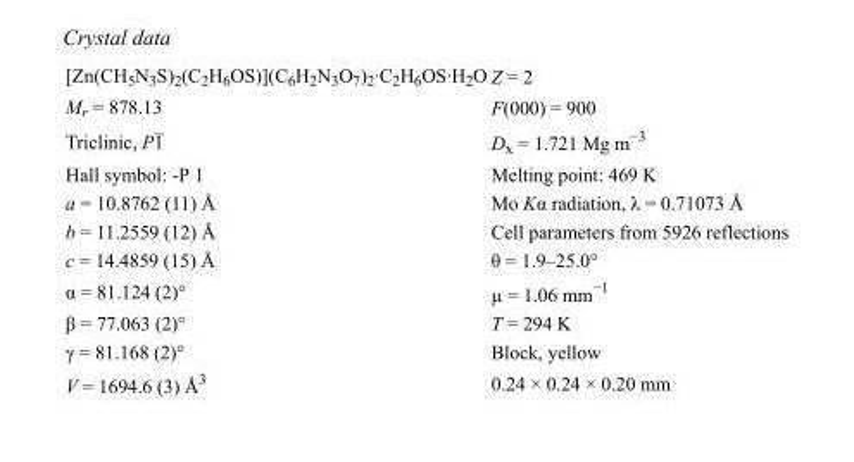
<table><tbody><tr><td>[Zn(CH<sub>5</sub>N<sub>3</sub>S)<sub>2</sub>(C<sub>2</sub>H<sub>6</sub>OS)](C<sub>6</sub>H<sub>2</sub>N<sub>3</sub>O<sub>7</sub>)<sub>2</sub>·C<sub>2</sub>H<sub>6</sub>OS·H<sub>2</sub>O</td><td>Z = 2</td></tr><tr><td>M<sub>r</sub> = 878.13</td><td>F(000) = 900</td></tr><tr><td>Triclinic, P1</td><td>D<sub>x</sub> = 1.721 Mg m<sup>−3</sup></td></tr><tr><td>Hall symbol: -P 1</td><td>Melting point: 469 K</td></tr><tr><td>a = 10.8762 (11) Å</td><td>Mo Kα radiation, λ = 0.71073 Å</td></tr><tr><td>b = 11.2559 (12) Å</td><td>Cell parameters from 5926 reflections</td></tr><tr><td>c = 14.4859 (15) Å</td><td>θ = 1.9–25.0°</td></tr><tr><td>α = 81.124 (2)°</td><td>µ = 1.06 mm<sup>−1</sup></td></tr><tr><td>β = 77.063 (2)°</td><td>T = 294 K</td></tr><tr><td>γ = 81.168 (2)°</td><td>Block, yellow</td></tr><tr><td>V = 1694.6 (3) Å<sup>3</sup></td><td>0.24 × 0.24 × 0.20 mm</td></tr></tbody></table>